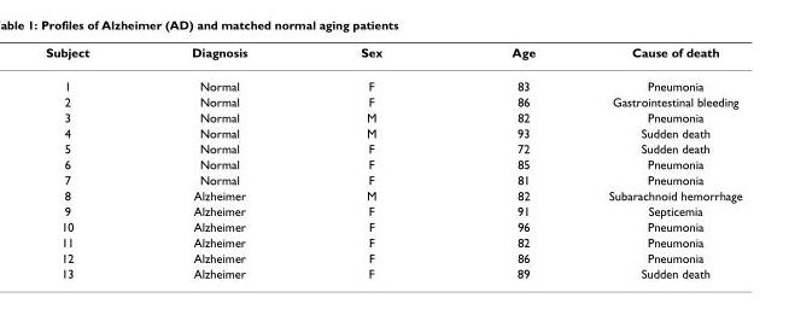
<table><thead><tr><td>Subject</td><td>Diagnosis</td><td>Sex</td><td>Age</td><td>Cause of death</td></tr></thead><tbody><tr><td>1</td><td>Normal</td><td>F</td><td>83</td><td>Pneumonia</td></tr><tr><td>2</td><td>Normal</td><td>F</td><td>86</td><td>Gastrointestinal bleeding</td></tr><tr><td>3</td><td>Normal</td><td>M</td><td>82</td><td>Pneumonia</td></tr><tr><td>4</td><td>Normal</td><td>M</td><td>93</td><td>Sudden death</td></tr><tr><td>5</td><td>Normal</td><td>F</td><td>72</td><td>Sudden death</td></tr><tr><td>6</td><td>Normal</td><td>F</td><td>85</td><td>Pneumonia</td></tr><tr><td>7</td><td>Normal</td><td>F</td><td>81</td><td>Pneumonia</td></tr><tr><td>8</td><td>Alzheimer</td><td>M</td><td>82</td><td>Subarachnoid hemorrhage</td></tr><tr><td>9</td><td>Alzheimer</td><td>F</td><td>91</td><td>Septicemia</td></tr><tr><td>10</td><td>Alzheimer</td><td>F</td><td>96</td><td>Pneumonia</td></tr><tr><td>11</td><td>Alzheimer</td><td>F</td><td>82</td><td>Pneumonia</td></tr><tr><td>12</td><td>Alzheimer</td><td>F</td><td>86</td><td>Pneumonia</td></tr><tr><td>13</td><td>Alzheimer</td><td>F</td><td>89</td><td>Sudden death</td></tr></tbody></table>